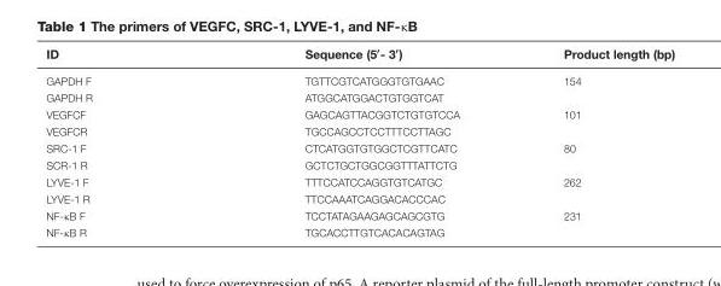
<table><thead><tr><td>ID</td><td>Sequence (5′- 3′)</td><td>Product length (bp)</td></tr></thead><tbody><tr><td>GAPDH F</td><td>TGTTCGTCATGGGTGTGAAC</td><td>154</td></tr><tr><td>GAPDH R</td><td>ATGGCATGGACTGTGGTCAT</td><td></td></tr><tr><td>VEGFCF</td><td>GAGCAGTTACGGTCTGTGTCCA</td><td>101</td></tr><tr><td>VEGFCR</td><td>TGCCAGCCTCCTTTCCTTAGC</td><td></td></tr><tr><td>SRC-1 F</td><td>CTCATGGTGTGGCTCGTTCATC</td><td>80</td></tr><tr><td>SCR-1 R</td><td>GCTCTGCTGGCGGTTTATTCTG</td><td></td></tr><tr><td>LYVE-1 F</td><td>TTTCCATCCAGGTGTCATGC</td><td>262</td></tr><tr><td>LYVE-1 R</td><td>TTCCAAATCAGGACACCCAC</td><td></td></tr><tr><td>NF-κB F</td><td>TCCTATAGAAGAGCAGCGTG</td><td>231</td></tr><tr><td>NF-κB R</td><td>TGCACCTTGTCACACAGTAG</td><td></td></tr></tbody></table>